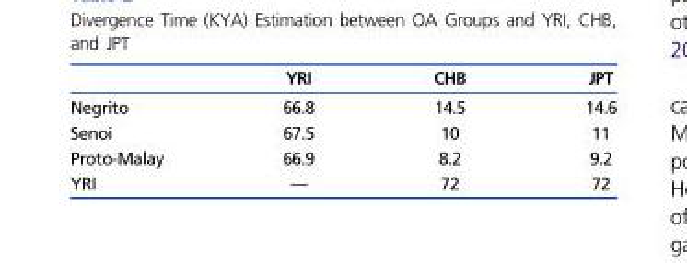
<table><thead><tr><td></td><td>YRI</td><td>CHB</td><td>JPT</td></tr></thead><tbody><tr><td>Negrito</td><td>66.8</td><td>14.5</td><td>14.6</td></tr><tr><td>Senoi</td><td>67.5</td><td>10</td><td>11</td></tr><tr><td>Proto-Malay</td><td>66.9</td><td>8.2</td><td>9.2</td></tr><tr><td>YRI</td><td>—</td><td>72</td><td>72</td></tr></tbody></table>